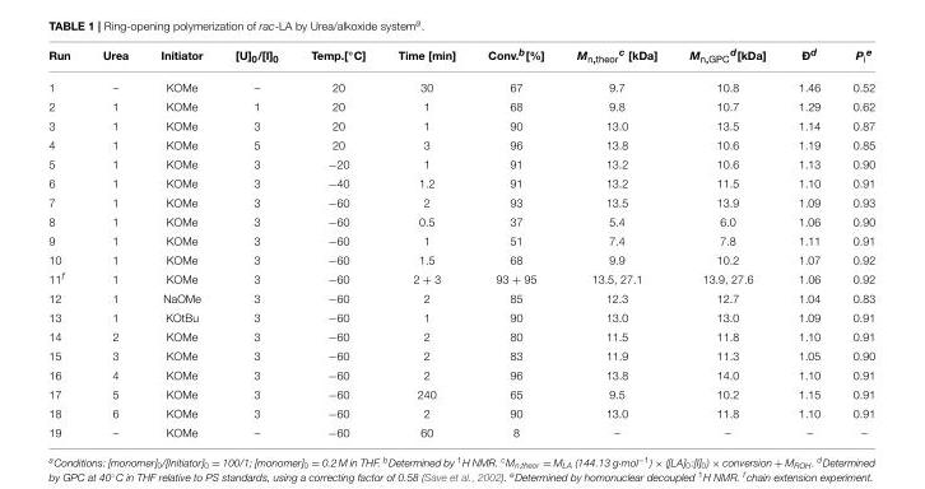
<table><thead><tr><td>Run</td><td>Urea</td><td>Initiator</td><td>[U]<sub>0</sub>/[I]<sub>0</sub></td><td>Temp.[◦C]</td><td>Time [min]</td><td>Conv.b[%]</td><td>Mn,theorc [kDa]</td><td>Mn,GPCd[kDa]</td><td>Ðd</td><td>Pie</td></tr></thead><tbody><tr><td>1</td><td>–</td><td>KOMe</td><td>–</td><td>20</td><td>30</td><td>67</td><td>9.7</td><td>10.8</td><td>1.46</td><td>0.52</td></tr><tr><td>2</td><td>1</td><td>KOMe</td><td>1</td><td>20</td><td>1</td><td>68</td><td>9.8</td><td>10.7</td><td>1.29</td><td>0.62</td></tr><tr><td>3</td><td>1</td><td>KOMe</td><td>3</td><td>20</td><td>1</td><td>90</td><td>13.0</td><td>13.5</td><td>1.14</td><td>0.87</td></tr><tr><td>4</td><td>1</td><td>KOMe</td><td>5</td><td>20</td><td>3</td><td>96</td><td>13.8</td><td>10.6</td><td>1.19</td><td>0.85</td></tr><tr><td>5</td><td>1</td><td>KOMe</td><td>3</td><td>−20</td><td>1</td><td>91</td><td>13.2</td><td>10.6</td><td>1.13</td><td>0.90</td></tr><tr><td>6</td><td>1</td><td>KOMe</td><td>3</td><td>−40</td><td>1.2</td><td>91</td><td>13.2</td><td>11.5</td><td>1.10</td><td>0.91</td></tr><tr><td>7</td><td>1</td><td>KOMe</td><td>3</td><td>−60</td><td>2</td><td>93</td><td>13.5</td><td>13.9</td><td>1.09</td><td>0.93</td></tr><tr><td>8</td><td>1</td><td>KOMe</td><td>3</td><td>−60</td><td>0.5</td><td>37</td><td>5.4</td><td>6.0</td><td>1.06</td><td>0.90</td></tr><tr><td>9</td><td>1</td><td>KOMe</td><td>3</td><td>−60</td><td>1</td><td>51</td><td>7.4</td><td>7.8</td><td>1.11</td><td>0.91</td></tr><tr><td>10</td><td>1</td><td>KOMe</td><td>3</td><td>−60</td><td>1.5</td><td>68</td><td>9.9</td><td>10.2</td><td>1.07</td><td>0.92</td></tr><tr><td>11f</td><td>1</td><td>KOMe</td><td>3</td><td>−60</td><td>2 + 3</td><td>93 + 95</td><td>13.5, 27.1</td><td>13.9, 27.6</td><td>1.06</td><td>0.92</td></tr><tr><td>12</td><td>1</td><td>NaOMe</td><td>3</td><td>−60</td><td>2</td><td>85</td><td>12.3</td><td>12.7</td><td>1.04</td><td>0.83</td></tr><tr><td>13</td><td>1</td><td>KOtBu</td><td>3</td><td>−60</td><td>1</td><td>90</td><td>13.0</td><td>13.0</td><td>1.09</td><td>0.91</td></tr><tr><td>14</td><td>2</td><td>KOMe</td><td>3</td><td>−60</td><td>2</td><td>80</td><td>11.5</td><td>11.8</td><td>1.10</td><td>0.91</td></tr><tr><td>15</td><td>3</td><td>KOMe</td><td>3</td><td>−60</td><td>2</td><td>83</td><td>11.9</td><td>11.3</td><td>1.05</td><td>0.90</td></tr><tr><td>16</td><td>4</td><td>KOMe</td><td>3</td><td>−60</td><td>2</td><td>96</td><td>13.8</td><td>14.0</td><td>1.10</td><td>0.91</td></tr><tr><td>17</td><td>5</td><td>KOMe</td><td>3</td><td>−60</td><td>240</td><td>65</td><td>9.5</td><td>10.2</td><td>1.15</td><td>0.91</td></tr><tr><td>18</td><td>6</td><td>KOMe</td><td>3</td><td>−60</td><td>2</td><td>90</td><td>13.0</td><td>11.8</td><td>1.10</td><td>0.91</td></tr><tr><td>19</td><td>–</td><td>KOMe</td><td>–</td><td>−60</td><td>60</td><td>8</td><td>–</td><td>–</td><td>–</td><td>–</td></tr></tbody></table>